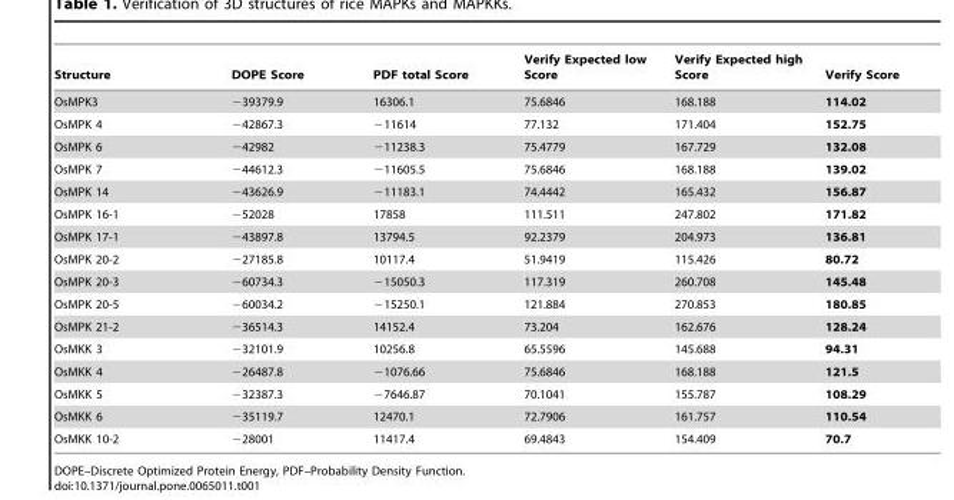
<table><thead><tr><td>Structure</td><td>DOPE Score</td><td>PDF total Score</td><td>Verify Expected low Score</td><td>Verify Expected high Score</td><td>Verify Score</td></tr></thead><tbody><tr><td>OsMPK3</td><td>−39379.9</td><td>16306.1</td><td>75.6846</td><td>168.188</td><td>114.02</td></tr><tr><td>OsMPK 4</td><td>−42867.3</td><td>−11614</td><td>77.132</td><td>171.404</td><td>152.75</td></tr><tr><td>OsMPK 6</td><td>−42982</td><td>−11238.3</td><td>75.4779</td><td>167.729</td><td>132.08</td></tr><tr><td>OsMPK 7</td><td>−44612.3</td><td>−11605.5</td><td>75.6846</td><td>168.188</td><td>139.02</td></tr><tr><td>OsMPK 14</td><td>−43626.9</td><td>−11183.1</td><td>74.4442</td><td>165.432</td><td>156.87</td></tr><tr><td>OsMPK 16-1</td><td>−52028</td><td>17858</td><td>111.511</td><td>247.802</td><td>171.82</td></tr><tr><td>OsMPK 17-1</td><td>−43897.8</td><td>13794.5</td><td>92.2379</td><td>204.973</td><td>136.81</td></tr><tr><td>OsMPK 20-2</td><td>−27185.8</td><td>10117.4</td><td>51.9419</td><td>115.426</td><td>80.72</td></tr><tr><td>OsMPK 20-3</td><td>−60734.3</td><td>−15050.3</td><td>117.319</td><td>260.708</td><td>145.48</td></tr><tr><td>OsMPK 20-5</td><td>−60034.2</td><td>−15250.1</td><td>121.884</td><td>270.853</td><td>180.85</td></tr><tr><td>OsMPK 21-2</td><td>−36514.3</td><td>14152.4</td><td>73.204</td><td>162.676</td><td>128.24</td></tr><tr><td>OsMKK 3</td><td>−32101.9</td><td>10256.8</td><td>65.5596</td><td>145.688</td><td>94.31</td></tr><tr><td>OsMKK 4</td><td>−26487.8</td><td>−1076.66</td><td>75.6846</td><td>168.188</td><td>121.5</td></tr><tr><td>OsMKK 5</td><td>−32387.3</td><td>−7646.87</td><td>70.1041</td><td>155.787</td><td>108.29</td></tr><tr><td>OsMKK 6</td><td>−35119.7</td><td>12470.1</td><td>72.7906</td><td>161.757</td><td>110.54</td></tr><tr><td>OsMKK 10-2</td><td>−28001</td><td>11417.4</td><td>69.4843</td><td>154.409</td><td>70.7</td></tr></tbody></table>